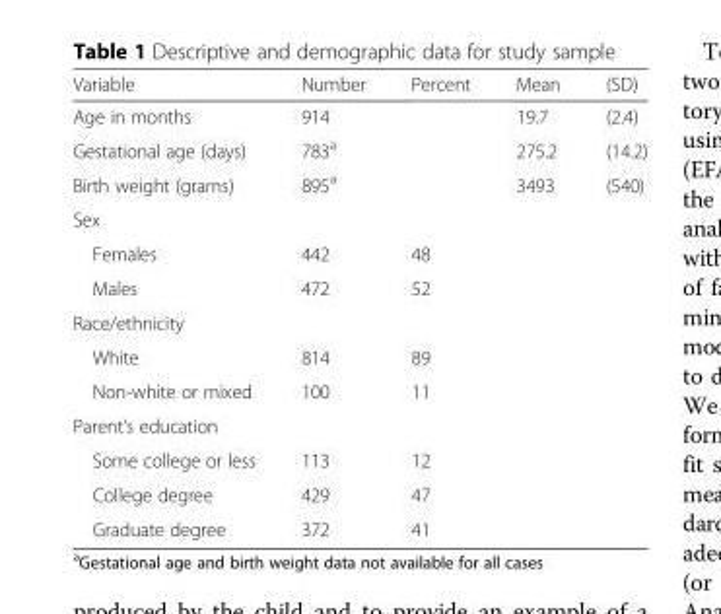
<table><thead><tr><td>Variable</td><td>Number</td><td>Percent</td><td>Mean</td><td>(SD)</td></tr></thead><tbody><tr><td>Age in months</td><td>914</td><td></td><td>19.7</td><td>(2.4)</td></tr><tr><td>Gestational age (days)</td><td>783<sup>a</sup></td><td></td><td>275.2</td><td>(14.2)</td></tr><tr><td>Birth weight (grams)</td><td>895<sup>a</sup></td><td></td><td>3493</td><td>(540)</td></tr><tr><td colspan="5">Sex</td></tr><tr><td>Females</td><td>442</td><td>48</td><td></td><td></td></tr><tr><td>Males</td><td>472</td><td>52</td><td></td><td></td></tr><tr><td colspan="5">Race/ethnicity</td></tr><tr><td>White</td><td>814</td><td>89</td><td></td><td></td></tr><tr><td>Non-white or mixed</td><td>100</td><td>11</td><td></td><td></td></tr><tr><td colspan="5">Parent’s education</td></tr><tr><td>Some college or less</td><td>113</td><td>12</td><td></td><td></td></tr><tr><td>College degree</td><td>429</td><td>47</td><td></td><td></td></tr><tr><td>Graduate degree</td><td>372</td><td>41</td><td></td><td></td></tr></tbody></table>